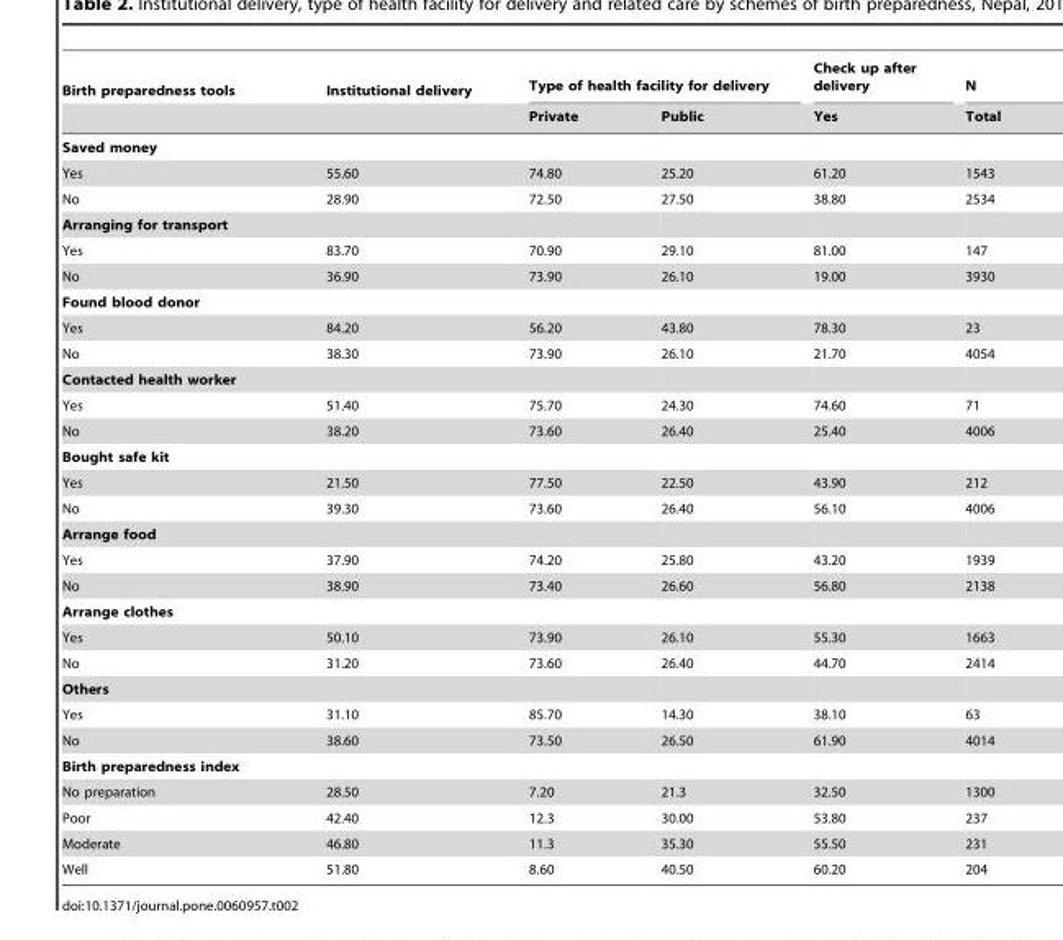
<table><thead><tr><td rowspan="2">Birth preparedness tools</td><td rowspan="2">Institutional delivery</td><td colspan="2">Type of health facility for delivery</td><td rowspan="2">Check up after delivery Yes</td><td rowspan="2">N Total</td></tr><tr><td>Private</td><td>Public</td></tr></thead><tbody><tr><td colspan="6">Saved money</td></tr><tr><td>Yes</td><td>55.60</td><td>74.80</td><td>25.20</td><td>61.20</td><td>1543</td></tr><tr><td>No</td><td>28.90</td><td>72.50</td><td>27.50</td><td>38.80</td><td>2534</td></tr><tr><td colspan="6">Arranging for transport</td></tr><tr><td>Yes</td><td>83.70</td><td>70.90</td><td>29.10</td><td>81.00</td><td>147</td></tr><tr><td>No</td><td>36.90</td><td>73.90</td><td>26.10</td><td>19.00</td><td>3930</td></tr><tr><td colspan="6">Found blood donor</td></tr><tr><td>Yes</td><td>84.20</td><td>56.20</td><td>43.80</td><td>78.30</td><td>23</td></tr><tr><td>No</td><td>38.30</td><td>73.90</td><td>26.10</td><td>21.70</td><td>4054</td></tr><tr><td colspan="6">Contacted health worker</td></tr><tr><td>Yes</td><td>51.40</td><td>75.70</td><td>24.30</td><td>74.60</td><td>71</td></tr><tr><td>No</td><td>38.20</td><td>73.60</td><td>26.40</td><td>25.40</td><td>4006</td></tr><tr><td colspan="6">Bought safe kit</td></tr><tr><td>Yes</td><td>21.50</td><td>77.50</td><td>22.50</td><td>43.90</td><td>212</td></tr><tr><td>No</td><td>39.30</td><td>73.60</td><td>26.40</td><td>56.10</td><td>4006</td></tr><tr><td colspan="6">Arrange food</td></tr><tr><td>Yes</td><td>37.90</td><td>74.20</td><td>25.80</td><td>43.20</td><td>1939</td></tr><tr><td>No</td><td>38.90</td><td>73.40</td><td>26.60</td><td>56.80</td><td>2138</td></tr><tr><td colspan="6">Arrange clothes</td></tr><tr><td>Yes</td><td>50.10</td><td>73.90</td><td>26.10</td><td>55.30</td><td>1663</td></tr><tr><td>No</td><td>31.20</td><td>73.60</td><td>26.40</td><td>44.70</td><td>2414</td></tr><tr><td colspan="6">Others</td></tr><tr><td>Yes</td><td>31.10</td><td>85.70</td><td>14.30</td><td>38.10</td><td>63</td></tr><tr><td>No</td><td>38.60</td><td>73.50</td><td>26.50</td><td>61.90</td><td>4014</td></tr><tr><td colspan="6">Birth preparedness index</td></tr><tr><td>No preparation</td><td>28.50</td><td>7.20</td><td>21.3</td><td>32.50</td><td>1300</td></tr><tr><td>Poor</td><td>42.40</td><td>12.3</td><td>30.00</td><td>53.80</td><td>237</td></tr><tr><td>Moderate</td><td>46.80</td><td>11.3</td><td>35.30</td><td>55.50</td><td>231</td></tr><tr><td>Well</td><td>51.80</td><td>8.60</td><td>40.50</td><td>60.20</td><td>204</td></tr></tbody></table>